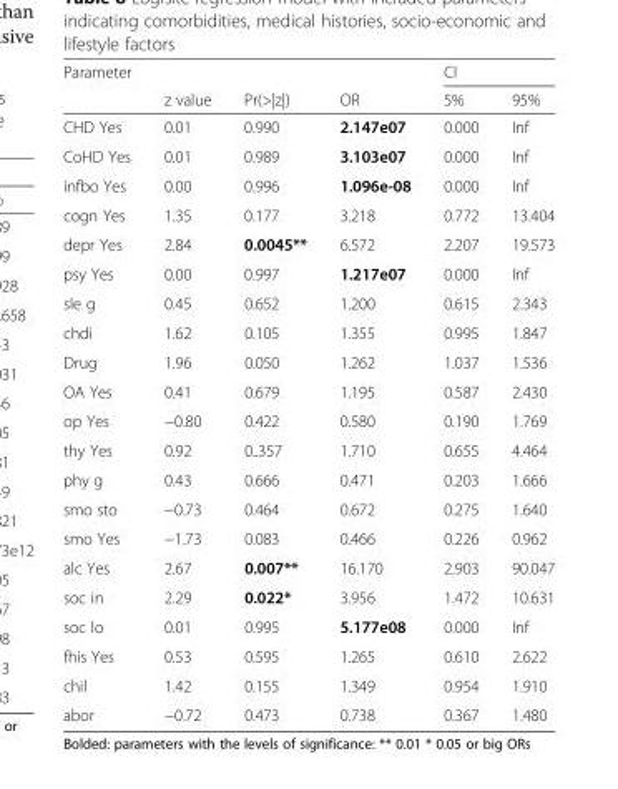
<table><thead><tr><td rowspan="2">Parameter</td><td rowspan="2">z value</td><td rowspan="2">Pr(&gt;|z|)</td><td rowspan="2">OR</td><td colspan="2">CI</td></tr><tr><td>5%</td><td>95%</td></tr></thead><tbody><tr><td>CHD Yes</td><td>0.01</td><td>0.990</td><td>2.147e07</td><td>0.000</td><td>Inf</td></tr><tr><td>CoHD Yes</td><td>0.01</td><td>0.989</td><td>3.103e07</td><td>0.000</td><td>Inf</td></tr><tr><td>infbo Yes</td><td>0.00</td><td>0.996</td><td>1.096e-08</td><td>0.000</td><td>Inf</td></tr><tr><td>cogn Yes</td><td>1.35</td><td>0.177</td><td>3.218</td><td>0.772</td><td>13.404</td></tr><tr><td>depr Yes</td><td>2.84</td><td>0.0045**</td><td>6.572</td><td>2.207</td><td>19.573</td></tr><tr><td>psy Yes</td><td>0.00</td><td>0.997</td><td>1.217e07</td><td>0.000</td><td>Inf</td></tr><tr><td>sle g</td><td>0.45</td><td>0.652</td><td>1.200</td><td>0.615</td><td>2.343</td></tr><tr><td>chdi</td><td>1.62</td><td>0.105</td><td>1.355</td><td>0.995</td><td>1.847</td></tr><tr><td>Drug</td><td>1.96</td><td>0.050</td><td>1.262</td><td>1.037</td><td>1.536</td></tr><tr><td>OA Yes</td><td>0.41</td><td>0.679</td><td>1.195</td><td>0.587</td><td>2.430</td></tr><tr><td>op Yes</td><td>−0.80</td><td>0.422</td><td>0.580</td><td>0.190</td><td>1.769</td></tr><tr><td>thy Yes</td><td>0.92</td><td>0..357</td><td>1.710</td><td>0.655</td><td>4.464</td></tr><tr><td>phy g</td><td>0.43</td><td>0.666</td><td>0.471</td><td>0.203</td><td>1.666</td></tr><tr><td>smo sto</td><td>−0.73</td><td>0.464</td><td>0.672</td><td>0.275</td><td>1.640</td></tr><tr><td>smo Yes</td><td>−1.73</td><td>0.083</td><td>0.466</td><td>0.226</td><td>0.962</td></tr><tr><td>alc Yes</td><td>2.67</td><td>0.007**</td><td>16.170</td><td>2.903</td><td>90.047</td></tr><tr><td>soc in</td><td>2.29</td><td>0.022*</td><td>3.956</td><td>1.472</td><td>10.631</td></tr><tr><td>soc lo</td><td>0.01</td><td>0.995</td><td>5.177e08</td><td>0.000</td><td>Inf</td></tr><tr><td>fhis Yes</td><td>0.53</td><td>0.595</td><td>1.265</td><td>0.610</td><td>2.622</td></tr><tr><td>chil</td><td>1.42</td><td>0.155</td><td>1.349</td><td>0.954</td><td>1.910</td></tr><tr><td>abor</td><td>−0.72</td><td>0.473</td><td>0.738</td><td>0.367</td><td>1.480</td></tr></tbody></table>